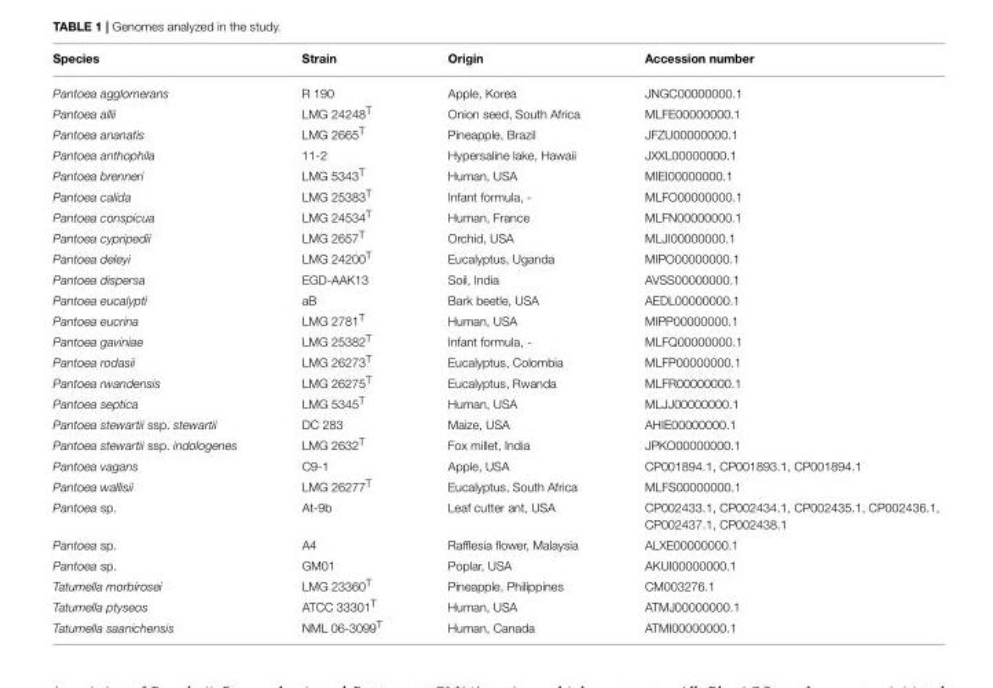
<table><thead><tr><td>Species</td><td>Strain</td><td>Origin</td><td>Accession number</td></tr></thead><tbody><tr><td>Pantoea agglomerans</td><td>R 190</td><td>Apple, Korea</td><td>JNGC00000000.1</td></tr><tr><td>Pantoea allii</td><td>LMG 24248<sup>T</sup></td><td>Onion seed, South Africa</td><td>MLFE00000000.1</td></tr><tr><td>Pantoea ananatis</td><td>LMG 2665<sup>T</sup></td><td>Pineapple, Brazil</td><td>JFZU00000000.1</td></tr><tr><td>Pantoea anthophila</td><td>11-2</td><td>Hypersaline lake, Hawaii</td><td>JXXL00000000.1</td></tr><tr><td>Pantoea brenneri</td><td>LMG 5343<sup>T</sup></td><td>Human, USA</td><td>MIEI00000000.1</td></tr><tr><td>Pantoea calida</td><td>LMG 25383<sup>T</sup></td><td>Infant formula, -</td><td>MLFO00000000.1</td></tr><tr><td>Pantoea conspicua</td><td>LMG 24534<sup>T</sup></td><td>Human, France</td><td>MLFN00000000.1</td></tr><tr><td>Pantoea cypripedii</td><td>LMG 2657<sup>T</sup></td><td>Orchid, USA</td><td>MLJI00000000.1</td></tr><tr><td>Pantoea deleyi</td><td>LMG 24200<sup>T</sup></td><td>Eucalyptus, Uganda</td><td>MIPO00000000.1</td></tr><tr><td>Pantoea dispersa</td><td>EGD-AAK13</td><td>Soil, India</td><td>AVSS00000000.1</td></tr><tr><td>Pantoea eucalypti</td><td>aB</td><td>Bark beetle, USA</td><td>AEDL00000000.1</td></tr><tr><td>Pantoea eucrina</td><td>LMG 2781<sup>T</sup></td><td>Human, USA</td><td>MIPP00000000.1</td></tr><tr><td>Pantoea gaviniae</td><td>LMG 25382<sup>T</sup></td><td>Infant formula, -</td><td>MLFQ00000000.1</td></tr><tr><td>Pantoea rodasii</td><td>LMG 26273<sup>T</sup></td><td>Eucalyptus, Colombia</td><td>MLFP00000000.1</td></tr><tr><td>Pantoea rwandensis</td><td>LMG 26275<sup>T</sup></td><td>Eucalyptus, Rwanda</td><td>MLFR00000000.1</td></tr><tr><td>Pantoea septica</td><td>LMG 5345<sup>T</sup></td><td>Human, USA</td><td>MLJJ00000000.1</td></tr><tr><td>Pantoea stewartii ssp. stewartii</td><td>DC 283</td><td>Maize, USA</td><td>AHIE00000000.1</td></tr><tr><td>Pantoea stewartii ssp. indologenes</td><td>LMG 2632<sup>T</sup></td><td>Fox millet, India</td><td>JPKO00000000.1</td></tr><tr><td>Pantoea vagans</td><td>C9-1</td><td>Apple, USA</td><td>CP001894.1, CP001893.1, CP001894.1</td></tr><tr><td>Pantoea wallisii</td><td>LMG 26277<sup>T</sup></td><td>Eucalyptus, South Africa</td><td>MLFS00000000.1</td></tr><tr><td>Pantoea sp.</td><td>At-9b</td><td>Leaf cutter ant, USA</td><td>CP002433.1, CP002434.1, CP002435.1, CP002436.1, CP002437.1, CP002438.1</td></tr><tr><td>Pantoea sp.</td><td>A4</td><td>Rafflesia flower, Malaysia</td><td>ALXE00000000.1</td></tr><tr><td>Pantoea sp.</td><td>GM01</td><td>Poplar, USA</td><td>AKUI00000000.1</td></tr><tr><td>Tatumella morbirosei</td><td>LMG 23360<sup>T</sup></td><td>Pineapple, Philippines</td><td>CM003276.1</td></tr><tr><td>Tatumella ptyseos</td><td>ATCC 33301<sup>T</sup></td><td>Human, USA</td><td>ATMJ00000000.1</td></tr><tr><td>Tatumella saanichensis</td><td>NML 06-3099<sup>T</sup></td><td>Human, Canada</td><td>ATMI00000000.1</td></tr></tbody></table>